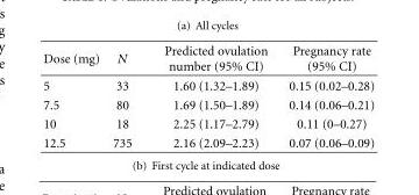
<table><thead><tr><td>Dose (mg)</td><td>N</td><td>Predicted ovulation number (95% CI)</td><td>Pregnancy rate (95% CI)</td></tr></thead><tbody><tr><td>5</td><td>33</td><td>1.60 (1.32–1.89)</td><td>0.15 (0.02–0.28)</td></tr><tr><td>7.5</td><td>80</td><td>1.69 (1.50–1.89)</td><td>0.14 (0.06–0.21)</td></tr><tr><td>10</td><td>18</td><td>2.25 (1.17–2.79)</td><td>0.11 (0–0.27)</td></tr><tr><td>12.5</td><td>735</td><td>2.16 (2.09–2.23)</td><td>0.07 (0.06–0.09)</td></tr></tbody></table>